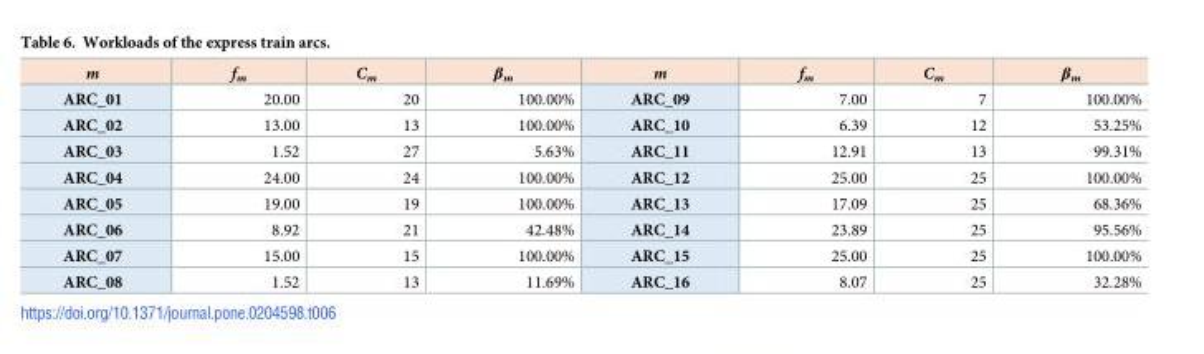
<table><thead><tr><td>m</td><td>f<sub>m</sub></td><td>C<sub>m</sub></td><td>β<sub>m</sub></td><td>m</td><td>f<sub>m</sub></td><td>C<sub>m</sub></td><td>β<sub>m</sub></td></tr></thead><tbody><tr><td>ARC_01</td><td>20.00</td><td>20</td><td>100.00%</td><td>ARC_09</td><td>7.00</td><td>7</td><td>100.00%</td></tr><tr><td>ARC_02</td><td>13.00</td><td>13</td><td>100.00%</td><td>ARC_10</td><td>6.39</td><td>12</td><td>53.25%</td></tr><tr><td>ARC_03</td><td>1.52</td><td>27</td><td>5.63%</td><td>ARC_11</td><td>12.91</td><td>13</td><td>99.31%</td></tr><tr><td>ARC_04</td><td>24.00</td><td>24</td><td>100.00%</td><td>ARC_12</td><td>25.00</td><td>25</td><td>100.00%</td></tr><tr><td>ARC_05</td><td>19.00</td><td>19</td><td>100.00%</td><td>ARC_13</td><td>17.09</td><td>25</td><td>68.36%</td></tr><tr><td>ARC_06</td><td>8.92</td><td>21</td><td>42.48%</td><td>ARC_14</td><td>23.89</td><td>25</td><td>95.56%</td></tr><tr><td>ARC_07</td><td>15.00</td><td>15</td><td>100.00%</td><td>ARC_15</td><td>25.00</td><td>25</td><td>100.00%</td></tr><tr><td>ARC_08</td><td>1.52</td><td>13</td><td>11.69%</td><td>ARC_16</td><td>8.07</td><td>25</td><td>32.28%</td></tr></tbody></table>